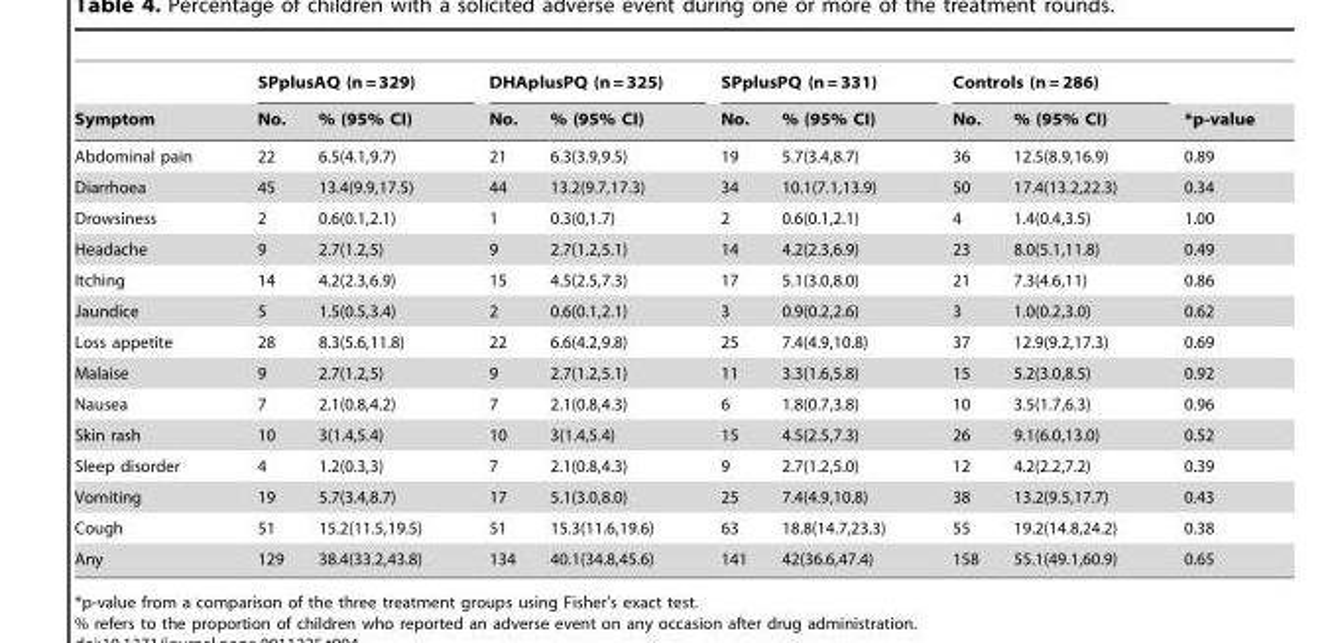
<table><thead><tr><td rowspan="2">Symptom</td><td colspan="2">SPplusAQ (n = 329)</td><td colspan="2">DHAplusPQ (n = 325)</td><td colspan="2">SPplusPQ (n = 331)</td><td colspan="2">Controls (n = 286)</td><td rowspan="2">*p-value</td></tr><tr><td>No.</td><td>% (95% CI)</td><td>No.</td><td>% (95% CI)</td><td>No.</td><td>% (95% CI)</td><td>No.</td><td>% (95% CI)</td></tr></thead><tbody><tr><td>Abdominal pain</td><td>22</td><td>6.5(4.1,9.7)</td><td>21</td><td>6.3(3.9,9.5)</td><td>19</td><td>5.7(3.4,8.7)</td><td>36</td><td>12.5(8.9,16.9)</td><td>0.89</td></tr><tr><td>Diarrhoea</td><td>45</td><td>13.4(9.9,17.5)</td><td>44</td><td>13.2(9.7,17.3)</td><td>34</td><td>10.1(7.1,13.9)</td><td>50</td><td>17.4(13.2,22.3)</td><td>0.34</td></tr><tr><td>Drowsiness</td><td>2</td><td>0.6(0.1,2.1)</td><td>1</td><td>0.3(0,1.7)</td><td>2</td><td>0.6(0.1,2.1)</td><td>4</td><td>1.4(0.4,3.5)</td><td>1.00</td></tr><tr><td>Headache</td><td>9</td><td>2.7(1.2,5)</td><td>9</td><td>2.7(1.2,5.1)</td><td>14</td><td>4.2(2.3,6.9)</td><td>23</td><td>8.0(5.1,11.8)</td><td>0.49</td></tr><tr><td>Itching</td><td>14</td><td>4.2(2.3,6.9)</td><td>15</td><td>4.5(2.5,7.3)</td><td>17</td><td>5.1(3.0,8.0)</td><td>21</td><td>7.3(4.6,11)</td><td>0.86</td></tr><tr><td>Jaundice</td><td>5</td><td>1.5(0.5,3.4)</td><td>2</td><td>0.6(0.1,2.1)</td><td>3</td><td>0.9(0.2,2.6)</td><td>3</td><td>1.0(0.2,3.0)</td><td>0.62</td></tr><tr><td>Loss appetite</td><td>28</td><td>8.3(5.6,11.8)</td><td>22</td><td>6.6(4.2,9.8)</td><td>25</td><td>7.4(4.9,10.8)</td><td>37</td><td>12.9(9.2,17.3)</td><td>0.69</td></tr><tr><td>Malaise</td><td>9</td><td>2.7(1.2,5)</td><td>9</td><td>2.7(1.2,5.1)</td><td>11</td><td>3.3(1.6,5.8)</td><td>15</td><td>5.2(3.0,8.5)</td><td>0.92</td></tr><tr><td>Nausea</td><td>7</td><td>2.1(0.8,4.2)</td><td>7</td><td>2.1(0.8,4.3)</td><td>6</td><td>1.8(0.7,3.8)</td><td>10</td><td>3.5(1.7,6.3)</td><td>0.96</td></tr><tr><td>Skin rash</td><td>10</td><td>3(1.4,5.4)</td><td>10</td><td>3(1.4,5.4)</td><td>15</td><td>4.5(2.5,7.3)</td><td>26</td><td>9.1(6.0,13.0)</td><td>0.52</td></tr><tr><td>Sleep disorder</td><td>4</td><td>1.2(0.3,3)</td><td>7</td><td>2.1(0.8,4.3)</td><td>9</td><td>2.7(1.2,5.0)</td><td>12</td><td>4.2(2.2,7.2)</td><td>0.39</td></tr><tr><td>Vomiting</td><td>19</td><td>5.7(3.4,8.7)</td><td>17</td><td>5.1(3.0,8.0)</td><td>25</td><td>7.4(4.9,10.8)</td><td>38</td><td>13.2(9.5,17.7)</td><td>0.43</td></tr><tr><td>Cough</td><td>51</td><td>15.2(11.5,19.5)</td><td>51</td><td>15.3(11.6,19.6)</td><td>63</td><td>18.8(14.7,23.3)</td><td>55</td><td>19.2(14.8,24.2)</td><td>0.38</td></tr><tr><td>Any</td><td>129</td><td>38.4(33.2,43.8)</td><td>134</td><td>40.1(34.8,45.6)</td><td>141</td><td>42(36.6,47.4)</td><td>158</td><td>55.1(49.1,60.9)</td><td>0.65</td></tr></tbody></table>